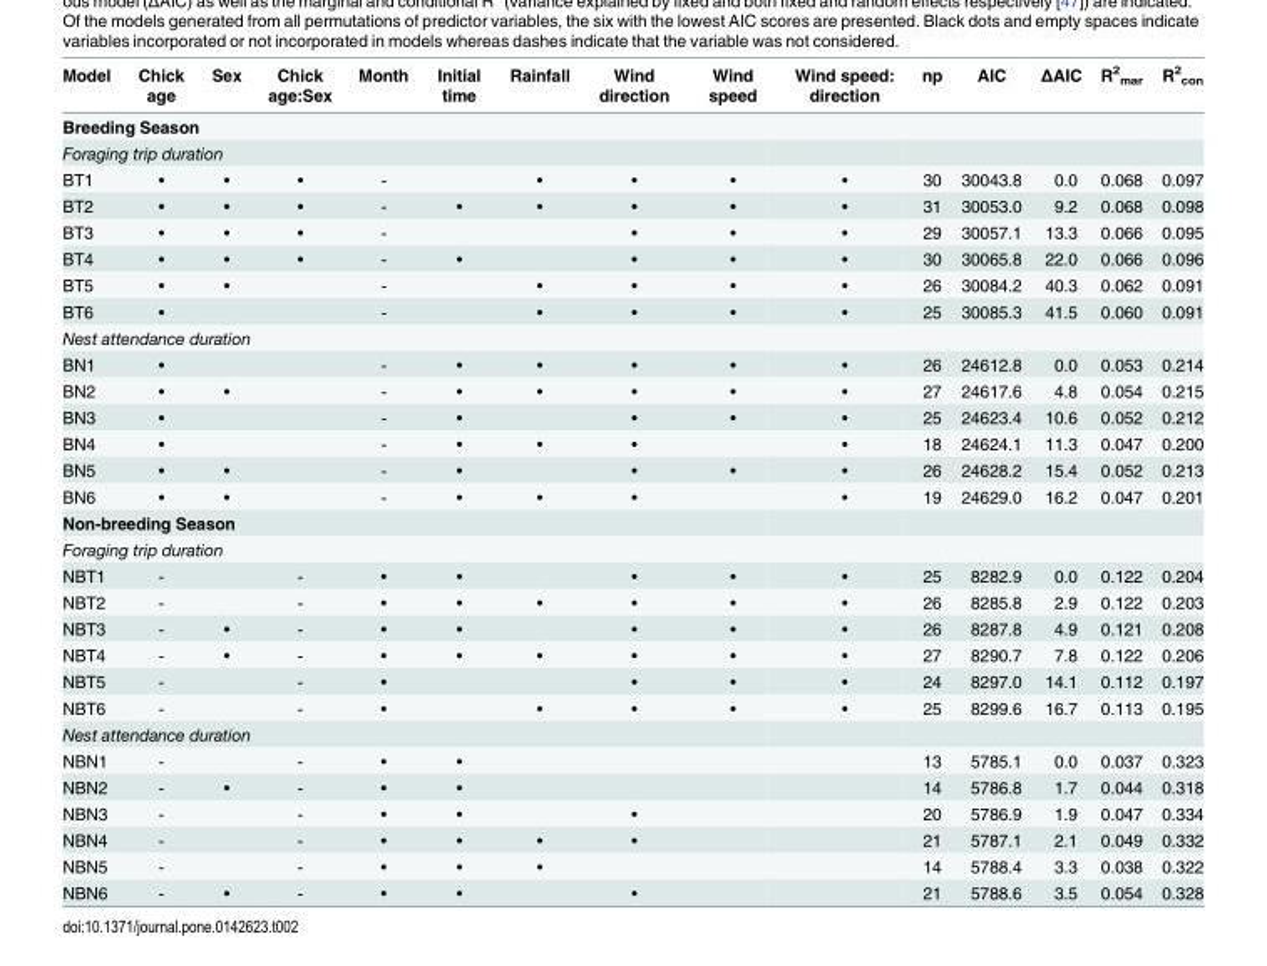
<table><thead><tr><td>Model</td><td>Chick age</td><td>Sex</td><td>Chick age:Sex</td><td>Month</td><td>Initial time</td><td>Rainfall</td><td>Wind direction</td><td>Wind speed</td><td>Wind speed: direction</td><td>np</td><td>AIC</td><td>ΔAIC</td><td>R<sup>2</sup> <sub>mar</sub></td><td>R<sup>2</sup> <sub>con</sub></td></tr></thead><tbody><tr><td colspan="15">Breeding Season</td></tr><tr><td colspan="15">Foraging trip duration</td></tr><tr><td>BT1</td><td>•</td><td>•</td><td>•</td><td>-</td><td></td><td>•</td><td>•</td><td>•</td><td>•</td><td>30</td><td>30043.8</td><td>0.0</td><td>0.068</td><td>0.097</td></tr><tr><td>BT2</td><td>•</td><td>•</td><td>•</td><td>-</td><td>•</td><td>•</td><td>•</td><td>•</td><td>•</td><td>31</td><td>30053.0</td><td>9.2</td><td>0.068</td><td>0.098</td></tr><tr><td>BT3</td><td>•</td><td>•</td><td>•</td><td>-</td><td></td><td></td><td>•</td><td>•</td><td>•</td><td>29</td><td>30057.1</td><td>13.3</td><td>0.066</td><td>0.095</td></tr><tr><td>BT4</td><td>•</td><td>•</td><td>•</td><td>-</td><td>•</td><td></td><td>•</td><td>•</td><td>•</td><td>30</td><td>30065.8</td><td>22.0</td><td>0.066</td><td>0.096</td></tr><tr><td>BT5</td><td>•</td><td>•</td><td></td><td>-</td><td></td><td>•</td><td>•</td><td>•</td><td>•</td><td>26</td><td>30084.2</td><td>40.3</td><td>0.062</td><td>0.091</td></tr><tr><td>BT6</td><td>•</td><td></td><td></td><td>-</td><td></td><td>•</td><td>•</td><td>•</td><td>•</td><td>25</td><td>30085.3</td><td>41.5</td><td>0.060</td><td>0.091</td></tr><tr><td colspan="15">Nest attendance duration</td></tr><tr><td>BN1</td><td>•</td><td></td><td></td><td>-</td><td>•</td><td>•</td><td>•</td><td>•</td><td>•</td><td>26</td><td>24612.8</td><td>0.0</td><td>0.053</td><td>0.214</td></tr><tr><td>BN2</td><td>•</td><td>•</td><td></td><td>-</td><td>•</td><td>•</td><td>•</td><td>•</td><td>•</td><td>27</td><td>24617.6</td><td>4.8</td><td>0.054</td><td>0.215</td></tr><tr><td>BN3</td><td>•</td><td></td><td></td><td>-</td><td>•</td><td></td><td>•</td><td>•</td><td>•</td><td>25</td><td>24623.4</td><td>10.6</td><td>0.052</td><td>0.212</td></tr><tr><td>BN4</td><td>•</td><td></td><td></td><td>-</td><td>•</td><td>•</td><td>•</td><td></td><td>•</td><td>18</td><td>24624.1</td><td>11.3</td><td>0.047</td><td>0.200</td></tr><tr><td>BN5</td><td>•</td><td>•</td><td></td><td>-</td><td>•</td><td></td><td>•</td><td>•</td><td>•</td><td>26</td><td>24628.2</td><td>15.4</td><td>0.052</td><td>0.213</td></tr><tr><td>BN6</td><td>•</td><td>•</td><td></td><td>-</td><td>•</td><td>•</td><td>•</td><td></td><td>•</td><td>19</td><td>24629.0</td><td>16.2</td><td>0.047</td><td>0.201</td></tr><tr><td colspan="15">Non-breeding Season</td></tr><tr><td colspan="15">Foraging trip duration</td></tr><tr><td>NBT1</td><td>-</td><td></td><td>-</td><td>•</td><td>•</td><td></td><td>•</td><td>•</td><td>•</td><td>25</td><td>8282.9</td><td>0.0</td><td>0.122</td><td>0.204</td></tr><tr><td>NBT2</td><td>-</td><td></td><td>-</td><td>•</td><td>•</td><td>•</td><td>•</td><td>•</td><td>•</td><td>26</td><td>8285.8</td><td>2.9</td><td>0.122</td><td>0.203</td></tr><tr><td>NBT3</td><td>-</td><td>•</td><td>-</td><td>•</td><td>•</td><td></td><td>•</td><td>•</td><td>•</td><td>26</td><td>8287.8</td><td>4.9</td><td>0.121</td><td>0.208</td></tr><tr><td>NBT4</td><td>-</td><td>•</td><td>-</td><td>•</td><td>•</td><td>•</td><td>•</td><td>•</td><td>•</td><td>27</td><td>8290.7</td><td>7.8</td><td>0.122</td><td>0.206</td></tr><tr><td>NBT5</td><td>-</td><td></td><td>-</td><td>•</td><td></td><td></td><td>•</td><td>•</td><td>•</td><td>24</td><td>8297.0</td><td>14.1</td><td>0.112</td><td>0.197</td></tr><tr><td>NBT6</td><td>-</td><td></td><td>-</td><td>•</td><td></td><td>•</td><td>•</td><td>•</td><td>•</td><td>25</td><td>8299.6</td><td>16.7</td><td>0.113</td><td>0.195</td></tr><tr><td colspan="15">Nest attendance duration</td></tr><tr><td>NBN1</td><td>-</td><td></td><td>-</td><td>•</td><td>•</td><td></td><td></td><td></td><td></td><td>13</td><td>5785.1</td><td>0.0</td><td>0.037</td><td>0.323</td></tr><tr><td>NBN2</td><td>-</td><td>•</td><td>-</td><td>•</td><td>•</td><td></td><td></td><td></td><td></td><td>14</td><td>5786.8</td><td>1.7</td><td>0.044</td><td>0.318</td></tr><tr><td>NBN3</td><td>-</td><td></td><td>-</td><td>•</td><td>•</td><td></td><td>•</td><td></td><td></td><td>20</td><td>5786.9</td><td>1.9</td><td>0.047</td><td>0.334</td></tr><tr><td>NBN4</td><td>-</td><td></td><td>-</td><td>•</td><td>•</td><td>•</td><td>•</td><td></td><td></td><td>21</td><td>5787.1</td><td>2.1</td><td>0.049</td><td>0.332</td></tr><tr><td>NBN5</td><td>-</td><td></td><td>-</td><td>•</td><td>•</td><td>•</td><td></td><td></td><td></td><td>14</td><td>5788.4</td><td>3.3</td><td>0.038</td><td>0.322</td></tr><tr><td>NBN6</td><td>-</td><td>•</td><td>-</td><td>•</td><td>•</td><td></td><td>•</td><td></td><td></td><td>21</td><td>5788.6</td><td>3.5</td><td>0.054</td><td>0.328</td></tr></tbody></table>